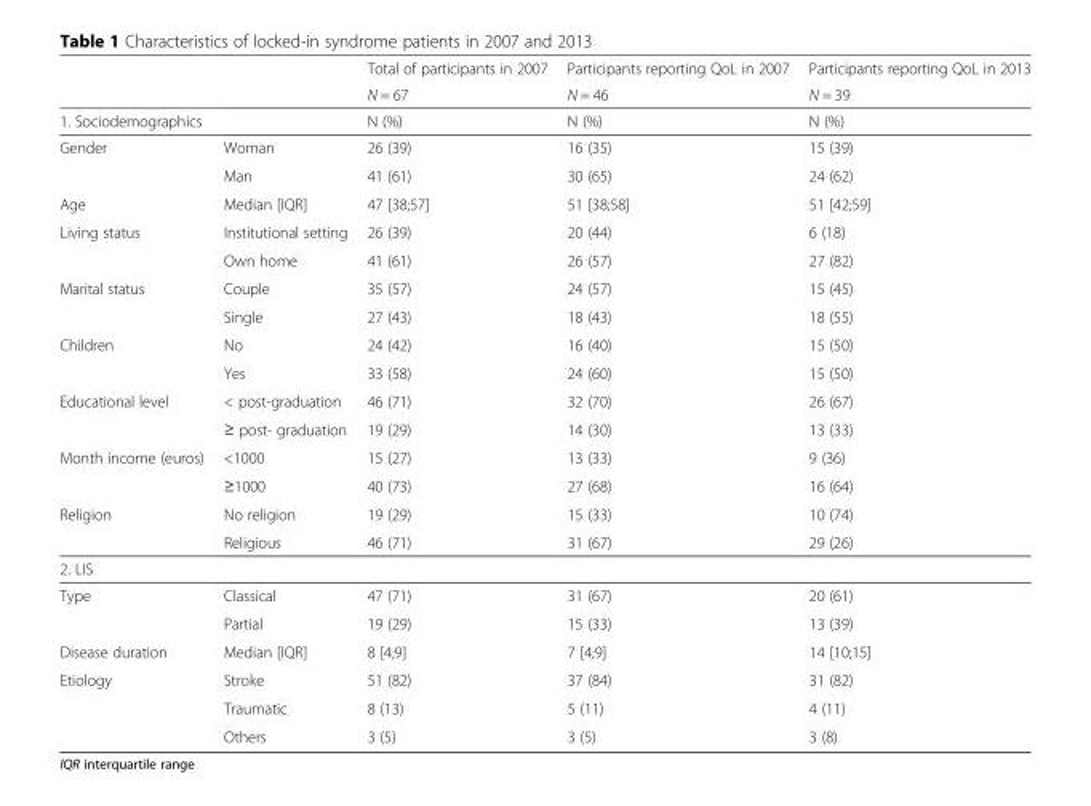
<table><thead><tr><td rowspan="2"></td><td rowspan="2"></td><td rowspan="2">Total of participants in 2007 N = 67</td><td rowspan="2">Participants reporting QoL in 2007 N = 46</td><td rowspan="2">Participants reporting QoL in 2013 N = 39</td></tr><tr></tr></thead><tbody><tr><td>1. Sociodemographics</td><td></td><td>N (%)</td><td>N (%)</td><td>N (%)</td></tr><tr><td rowspan="2">Gender</td><td>Woman</td><td>26 (39)</td><td>16 (35)</td><td>15 (39)</td></tr><tr><td>Man</td><td>41 (61)</td><td>30 (65)</td><td>24 (62)</td></tr><tr><td>Age</td><td>Median [IQR]</td><td>47 [38;57]</td><td>51 [38;58]</td><td>51 [42;59]</td></tr><tr><td rowspan="2">Living status</td><td>Institutional setting</td><td>26 (39)</td><td>20 (44)</td><td>6 (18)</td></tr><tr><td>Own home</td><td>41 (61)</td><td>26 (57)</td><td>27 (82)</td></tr><tr><td rowspan="2">Marital status</td><td>Couple</td><td>35 (57)</td><td>24 (57)</td><td>15 (45)</td></tr><tr><td>Single</td><td>27 (43)</td><td>18 (43)</td><td>18 (55)</td></tr><tr><td rowspan="2">Children</td><td>No</td><td>24 (42)</td><td>16 (40)</td><td>15 (50)</td></tr><tr><td>Yes</td><td>33 (58)</td><td>24 (60)</td><td>15 (50)</td></tr><tr><td rowspan="2">Educational level</td><td>&lt; post-graduation</td><td>46 (71)</td><td>32 (70)</td><td>26 (67)</td></tr><tr><td>≥ post- graduation</td><td>19 (29)</td><td>14 (30)</td><td>13 (33)</td></tr><tr><td rowspan="2">Month income (euros)</td><td>&lt;1000</td><td>15 (27)</td><td>13 (33)</td><td>9 (36)</td></tr><tr><td>≥1000</td><td>40 (73)</td><td>27 (68)</td><td>16 (64)</td></tr><tr><td rowspan="2">Religion</td><td>No religion</td><td>19 (29)</td><td>15 (33)</td><td>10 (74)</td></tr><tr><td>Religious</td><td>46 (71)</td><td>31 (67)</td><td>29 (26)</td></tr><tr><td colspan="5">2. LIS</td></tr><tr><td rowspan="2">Type</td><td>Classical</td><td>47 (71)</td><td>31 (67)</td><td>20 (61)</td></tr><tr><td>Partial</td><td>19 (29)</td><td>15 (33)</td><td>13 (39)</td></tr><tr><td>Disease duration</td><td>Median [IQR]</td><td>8 [4;9]</td><td>7 [4;9]</td><td>14 [10;15]</td></tr><tr><td rowspan="3">Etiology</td><td>Stroke</td><td>51 (82)</td><td>37 (84)</td><td>31 (82)</td></tr><tr><td>Traumatic</td><td>8 (13)</td><td>5 (11)</td><td>4 (11)</td></tr><tr><td>Others</td><td>3 (5)</td><td>3 (5)</td><td>3 (8)</td></tr></tbody></table>